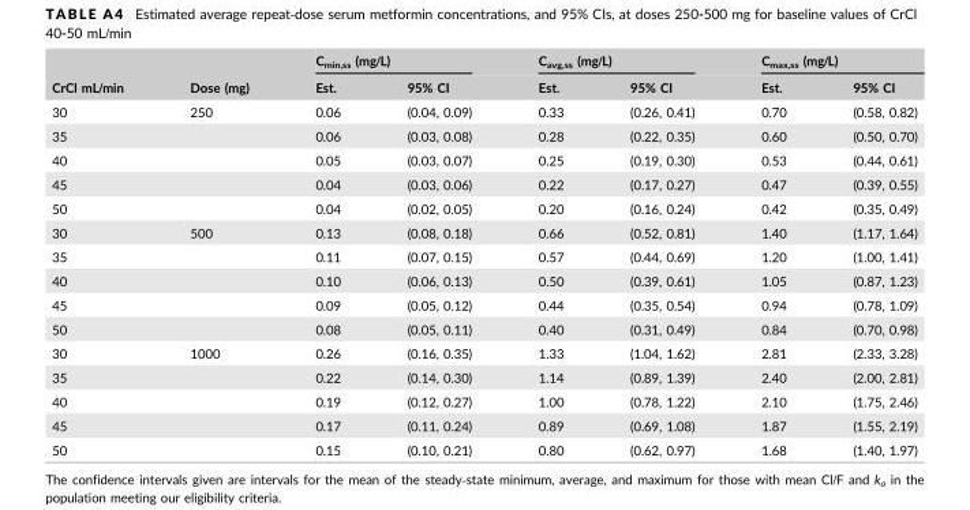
<table><thead><tr><td rowspan="2">CrCl mL/min</td><td rowspan="2">Dose (mg)</td><td colspan="2">C<sub>min,ss</sub> (mg/L)</td><td colspan="2">C<sub>avg,ss</sub> (mg/L)</td><td colspan="2">C<sub>max,ss</sub> (mg/L)</td></tr><tr><td>Est.</td><td>95% CI</td><td>Est.</td><td>95% CI</td><td>Est.</td><td>95% CI</td></tr></thead><tbody><tr><td>30</td><td>250</td><td>0.06</td><td>(0.04, 0.09)</td><td>0.33</td><td>(0.26, 0.41)</td><td>0.70</td><td>(0.58, 0.82)</td></tr><tr><td>35</td><td></td><td>0.06</td><td>(0.03, 0.08)</td><td>0.28</td><td>(0.22, 0.35)</td><td>0.60</td><td>(0.50, 0.70)</td></tr><tr><td>40</td><td></td><td>0.05</td><td>(0.03, 0.07)</td><td>0.25</td><td>(0.19, 0.30)</td><td>0.53</td><td>(0.44, 0.61)</td></tr><tr><td>45</td><td></td><td>0.04</td><td>(0.03, 0.06)</td><td>0.22</td><td>(0.17, 0.27)</td><td>0.47</td><td>(0.39, 0.55)</td></tr><tr><td>50</td><td></td><td>0.04</td><td>(0.02, 0.05)</td><td>0.20</td><td>(0.16, 0.24)</td><td>0.42</td><td>(0.35, 0.49)</td></tr><tr><td>30</td><td>500</td><td>0.13</td><td>(0.08, 0.18)</td><td>0.66</td><td>(0.52, 0.81)</td><td>1.40</td><td>(1.17, 1.64)</td></tr><tr><td>35</td><td></td><td>0.11</td><td>(0.07, 0.15)</td><td>0.57</td><td>(0.44, 0.69)</td><td>1.20</td><td>(1.00, 1.41)</td></tr><tr><td>40</td><td></td><td>0.10</td><td>(0.06, 0.13)</td><td>0.50</td><td>(0.39, 0.61)</td><td>1.05</td><td>(0.87, 1.23)</td></tr><tr><td>45</td><td></td><td>0.09</td><td>(0.05, 0.12)</td><td>0.44</td><td>(0.35, 0.54)</td><td>0.94</td><td>(0.78, 1.09)</td></tr><tr><td>50</td><td></td><td>0.08</td><td>(0.05, 0.11)</td><td>0.40</td><td>(0.31, 0.49)</td><td>0.84</td><td>(0.70, 0.98)</td></tr><tr><td>30</td><td>1000</td><td>0.26</td><td>(0.16, 0.35)</td><td>1.33</td><td>(1.04, 1.62)</td><td>2.81</td><td>(2.33, 3.28)</td></tr><tr><td>35</td><td></td><td>0.22</td><td>(0.14, 0.30)</td><td>1.14</td><td>(0.89, 1.39)</td><td>2.40</td><td>(2.00, 2.81)</td></tr><tr><td>40</td><td></td><td>0.19</td><td>(0.12, 0.27)</td><td>1.00</td><td>(0.78, 1.22)</td><td>2.10</td><td>(1.75, 2.46)</td></tr><tr><td>45</td><td></td><td>0.17</td><td>(0.11, 0.24)</td><td>0.89</td><td>(0.69, 1.08)</td><td>1.87</td><td>(1.55, 2.19)</td></tr><tr><td>50</td><td></td><td>0.15</td><td>(0.10, 0.21)</td><td>0.80</td><td>(0.62, 0.97)</td><td>1.68</td><td>(1.40, 1.97)</td></tr></tbody></table>